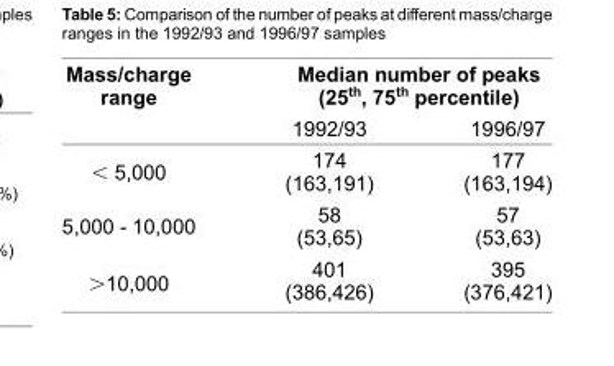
<table><thead><tr><td rowspan="2">Mass/charge range</td><td colspan="2">Median number of peaks (25<sup>th</sup>, 75<sup>th</sup> percentile)</td></tr><tr><td>1992/93</td><td>1996/97</td></tr></thead><tbody><tr><td>&lt; 5,000</td><td>174 (163,191)</td><td>177 (163,194)</td></tr><tr><td>5,000 - 10,000</td><td>58 (53,65)</td><td>57 (53,63)</td></tr><tr><td>&gt;10,000</td><td>401 (386,426)</td><td>395 (376,421)</td></tr></tbody></table>